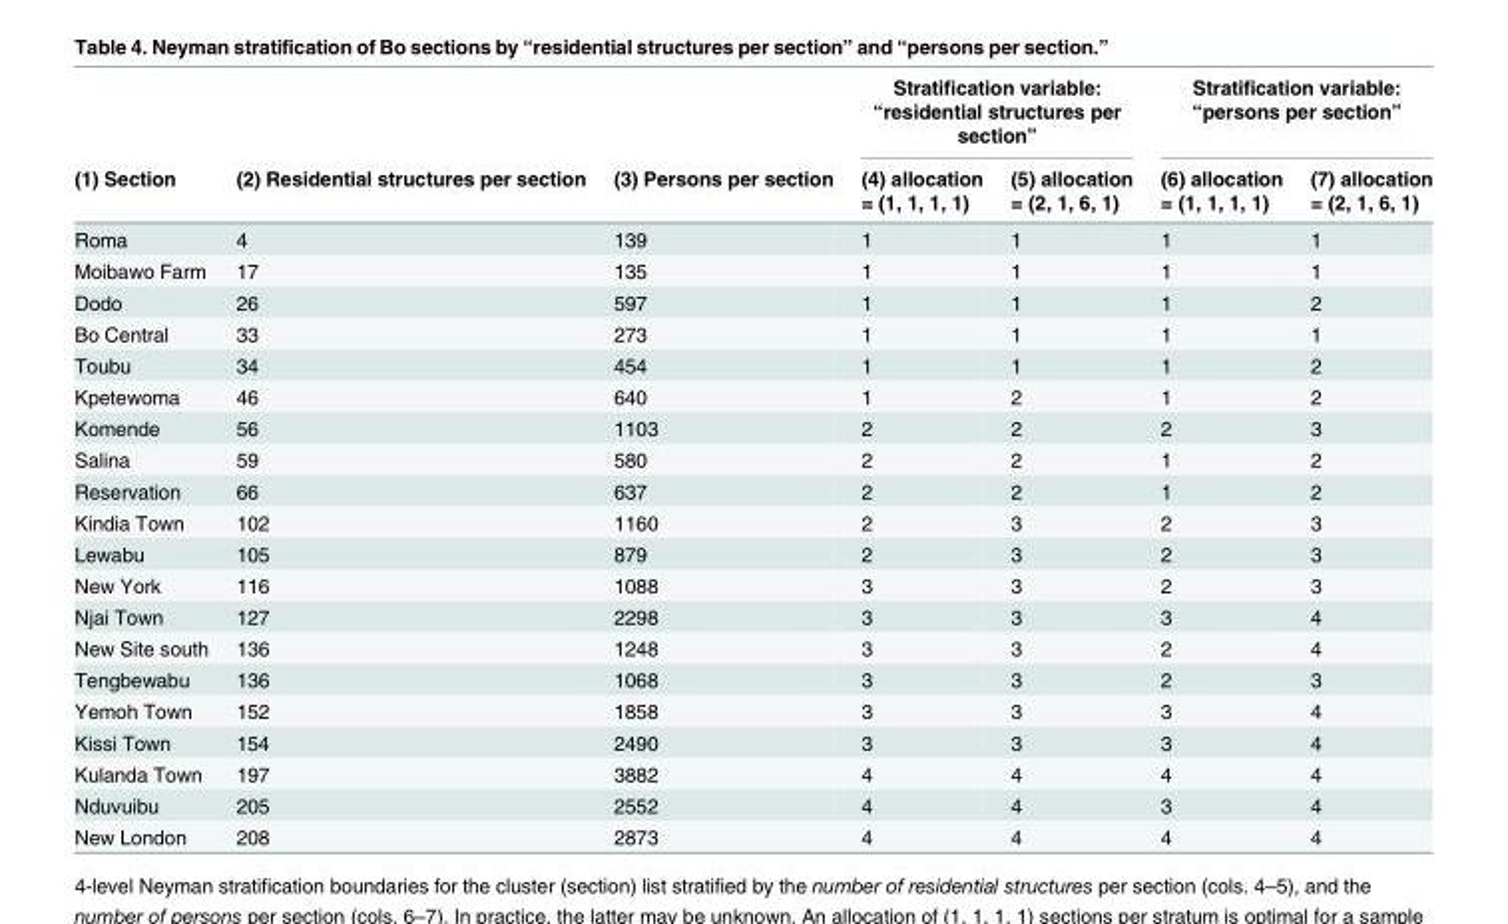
<table><thead><tr><td rowspan="2">(1) Section</td><td rowspan="2">(2) Residential structures per section</td><td rowspan="2">(3) Persons per section</td><td colspan="2">Stratification variable: “residential structures per section”</td><td colspan="2">Stratification variable: “persons per section”</td></tr><tr><td>(4) allocation = (1, 1, 1, 1)</td><td>(5) allocation = (2, 1, 6, 1)</td><td>(6) allocation = (1, 1, 1, 1)</td><td>(7) allocation = (2, 1, 6, 1)</td></tr></thead><tbody><tr><td>Roma</td><td>4</td><td>139</td><td>1</td><td>1</td><td>1</td><td>1</td></tr><tr><td>Moibawo Farm</td><td>17</td><td>135</td><td>1</td><td>1</td><td>1</td><td>1</td></tr><tr><td>Dodo</td><td>26</td><td>597</td><td>1</td><td>1</td><td>1</td><td>2</td></tr><tr><td>Bo Central</td><td>33</td><td>273</td><td>1</td><td>1</td><td>1</td><td>1</td></tr><tr><td>Toubu</td><td>34</td><td>454</td><td>1</td><td>1</td><td>1</td><td>2</td></tr><tr><td>Kpetewoma</td><td>46</td><td>640</td><td>1</td><td>2</td><td>1</td><td>2</td></tr><tr><td>Komende</td><td>56</td><td>1103</td><td>2</td><td>2</td><td>2</td><td>3</td></tr><tr><td>Salina</td><td>59</td><td>580</td><td>2</td><td>2</td><td>1</td><td>2</td></tr><tr><td>Reservation</td><td>66</td><td>637</td><td>2</td><td>2</td><td>1</td><td>2</td></tr><tr><td>Kindia Town</td><td>102</td><td>1160</td><td>2</td><td>3</td><td>2</td><td>3</td></tr><tr><td>Lewabu</td><td>105</td><td>879</td><td>2</td><td>3</td><td>2</td><td>3</td></tr><tr><td>New York</td><td>116</td><td>1088</td><td>3</td><td>3</td><td>2</td><td>3</td></tr><tr><td>Njai Town</td><td>127</td><td>2298</td><td>3</td><td>3</td><td>3</td><td>4</td></tr><tr><td>New Site south</td><td>136</td><td>1248</td><td>3</td><td>3</td><td>2</td><td>4</td></tr><tr><td>Tengbewabu</td><td>136</td><td>1068</td><td>3</td><td>3</td><td>2</td><td>3</td></tr><tr><td>Yemoh Town</td><td>152</td><td>1858</td><td>3</td><td>3</td><td>3</td><td>4</td></tr><tr><td>Kissi Town</td><td>154</td><td>2490</td><td>3</td><td>3</td><td>3</td><td>4</td></tr><tr><td>Kulanda Town</td><td>197</td><td>3882</td><td>4</td><td>4</td><td>4</td><td>4</td></tr><tr><td>Nduvuibu</td><td>205</td><td>2552</td><td>4</td><td>4</td><td>3</td><td>4</td></tr><tr><td>New London</td><td>208</td><td>2873</td><td>4</td><td>4</td><td>4</td><td>4</td></tr></tbody></table>